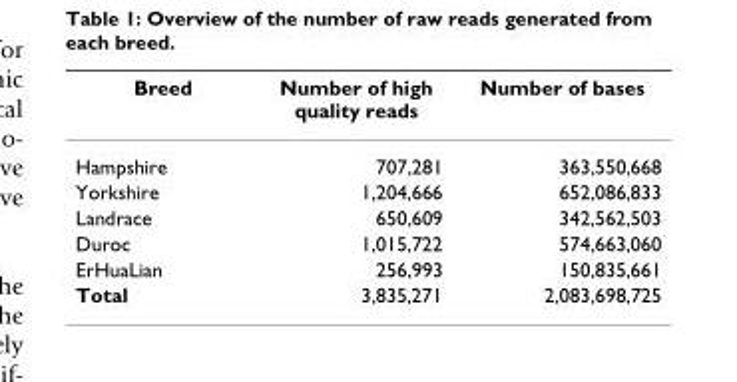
<table><thead><tr><td>Breed</td><td>Number of high quality reads</td><td>Number of bases</td></tr></thead><tbody><tr><td>Hampshire</td><td>707,281</td><td>363,550,668</td></tr><tr><td>Yorkshire</td><td>1,204,666</td><td>652,086,833</td></tr><tr><td>Landrace</td><td>650,609</td><td>342,562,503</td></tr><tr><td>Duroc</td><td>1,015,722</td><td>574,663,060</td></tr><tr><td>ErHuaLian</td><td>256,993</td><td>150,835,661</td></tr><tr><td>Total</td><td>3,835,271</td><td>2,083,698,725</td></tr></tbody></table>